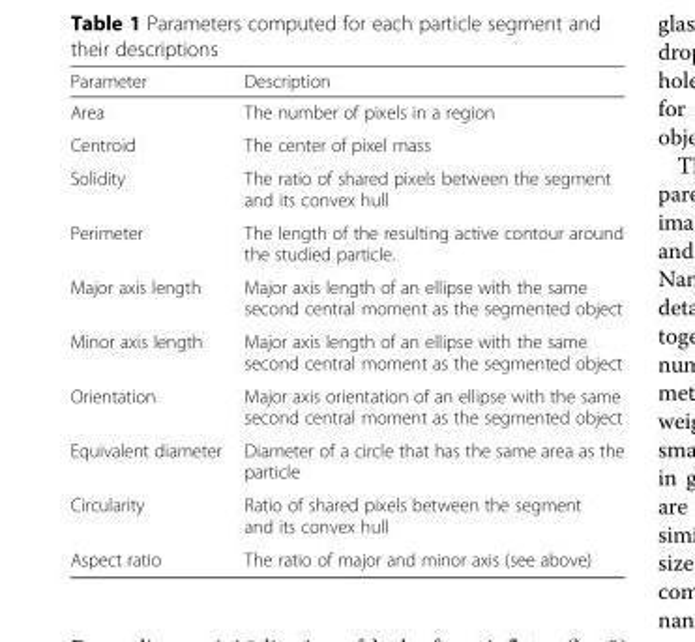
<table><thead><tr><td>Parameter</td><td>Description</td></tr></thead><tbody><tr><td>Area</td><td>The number of pixels in a region</td></tr><tr><td>Centroid</td><td>The center of pixel mass</td></tr><tr><td>Solidity</td><td>The ratio of shared pixels between the segment and its convex hull</td></tr><tr><td>Perimeter</td><td>The length of the resulting active contour around the studied particle.</td></tr><tr><td>Major axis length</td><td>Major axis length of an ellipse with the same second central moment as the segmented object</td></tr><tr><td>Minor axis length</td><td>Major axis length of an ellipse with the same second central moment as the segmented object</td></tr><tr><td>Orientation</td><td>Major axis orientation of an ellipse with the same second central moment as the segmented object</td></tr><tr><td>Equivalent diameter</td><td>Diameter of a circle that has the same area as the particle</td></tr><tr><td>Circularity</td><td>Ratio of shared pixels between the segment and its convex hull</td></tr><tr><td>Aspect ratio</td><td>The ratio of major and minor axis (see above)</td></tr></tbody></table>